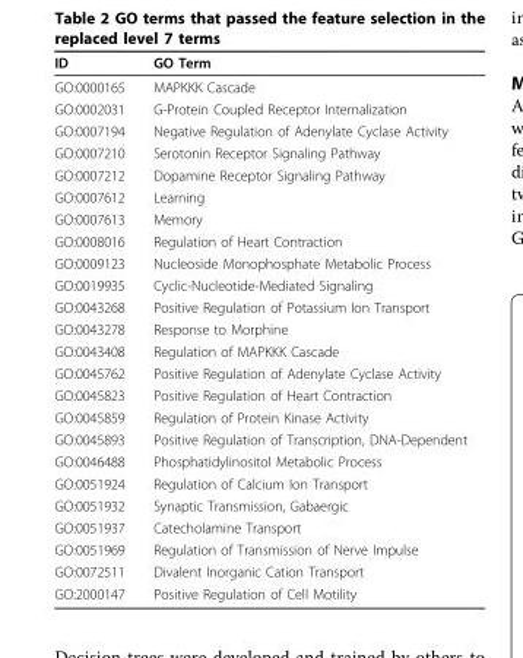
<table><thead><tr><td>ID</td><td>GO Term</td></tr></thead><tbody><tr><td>GO:0000165</td><td>MAPKKK Cascade</td></tr><tr><td>GO:0002031</td><td>G-Protein Coupled Receptor Internalization</td></tr><tr><td>GO:0007194</td><td>Negative Regulation of Adenylate Cyclase Activity</td></tr><tr><td>GO:0007210</td><td>Serotonin Receptor Signaling Pathway</td></tr><tr><td>GO:0007212</td><td>Dopamine Receptor Signaling Pathway</td></tr><tr><td>GO:0007612</td><td>Learning</td></tr><tr><td>GO:0007613</td><td>Memory</td></tr><tr><td>GO:0008016</td><td>Regulation of Heart Contraction</td></tr><tr><td>GO:0009123</td><td>Nucleoside Monophosphate Metabolic Process</td></tr><tr><td>GO:0019935</td><td>Cyclic-Nucleotide-Mediated Signaling</td></tr><tr><td>GO:0043268</td><td>Positive Regulation of Potassium Ion Transport</td></tr><tr><td>GO:0043278</td><td>Response to Morphine</td></tr><tr><td>GO:0043408</td><td>Regulation of MAPKKK Cascade</td></tr><tr><td>GO:0045762</td><td>Positive Regulation of Adenylate Cyclase Activity</td></tr><tr><td>GO:0045823</td><td>Positive Regulation of Heart Contraction</td></tr><tr><td>GO:0045859</td><td>Regulation of Protein Kinase Activity</td></tr><tr><td>GO:0045893</td><td>Positive Regulation of Transcription, DNA-Dependent</td></tr><tr><td>GO:0046488</td><td>Phosphatidylinositol Metabolic Process</td></tr><tr><td>GO:0051924</td><td>Regulation of Calcium Ion Transport</td></tr><tr><td>GO:0051932</td><td>Synaptic Transmission, Gabaergic</td></tr><tr><td>GO:0051937</td><td>Catecholamine Transport</td></tr><tr><td>GO:0051969</td><td>Regulation of Transmission of Nerve Impulse</td></tr><tr><td>GO:0072511</td><td>Divalent Inorganic Cation Transport</td></tr><tr><td>GO:2000147</td><td>Positive Regulation of Cell Motility</td></tr></tbody></table>